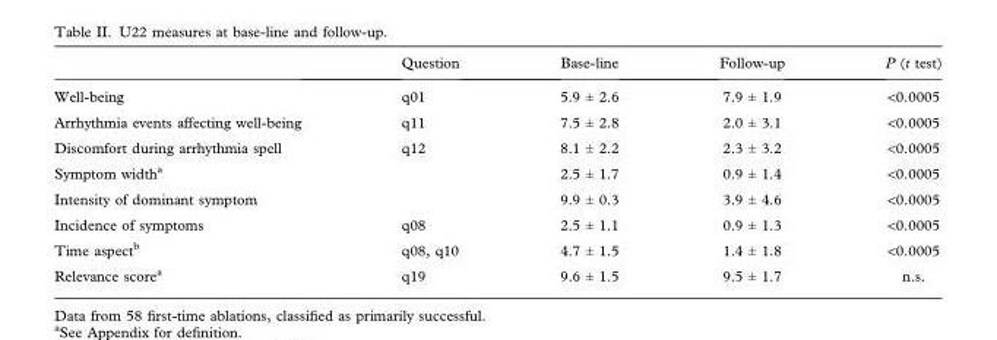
<table><thead><tr><td></td><td>Question</td><td>Base-line</td><td>Follow-up</td><td>P (t test)</td></tr></thead><tbody><tr><td>Well-being</td><td>q01</td><td>5.9 ± 2.6</td><td>7.9 ± 1.9</td><td>&lt;0.0005</td></tr><tr><td>Arrhythmia events affecting well-being</td><td>q11</td><td>7.5 ± 2.8</td><td>2.0 ± 3.1</td><td>&lt;0.0005</td></tr><tr><td>Discomfort during arrhythmia spell</td><td>q12</td><td>8.1 ± 2.2</td><td>2.3 ± 3.2</td><td>&lt;0.0005</td></tr><tr><td>Symptom width<sup>a</sup></td><td></td><td>2.5 ± 1.7</td><td>0.9 ± 1.4</td><td>&lt;0.0005</td></tr><tr><td>Intensity of dominant symptom</td><td></td><td>9.9 ± 0.3</td><td>3.9 ± 4.6</td><td>&lt;0.0005</td></tr><tr><td>Incidence of symptoms</td><td>q08</td><td>2.5 ± 1.1</td><td>0.9 ± 1.3</td><td>&lt;0.0005</td></tr><tr><td>Time aspect<sup>b</sup></td><td>q08, q10</td><td>4.7 ± 1.5</td><td>1.4 ± 1.8</td><td>&lt;0.0005</td></tr><tr><td>Relevance score<sup>a</sup></td><td>q19</td><td>9.6 ± 1.5</td><td>9.5 ± 1.7</td><td>n.s.</td></tr></tbody></table>